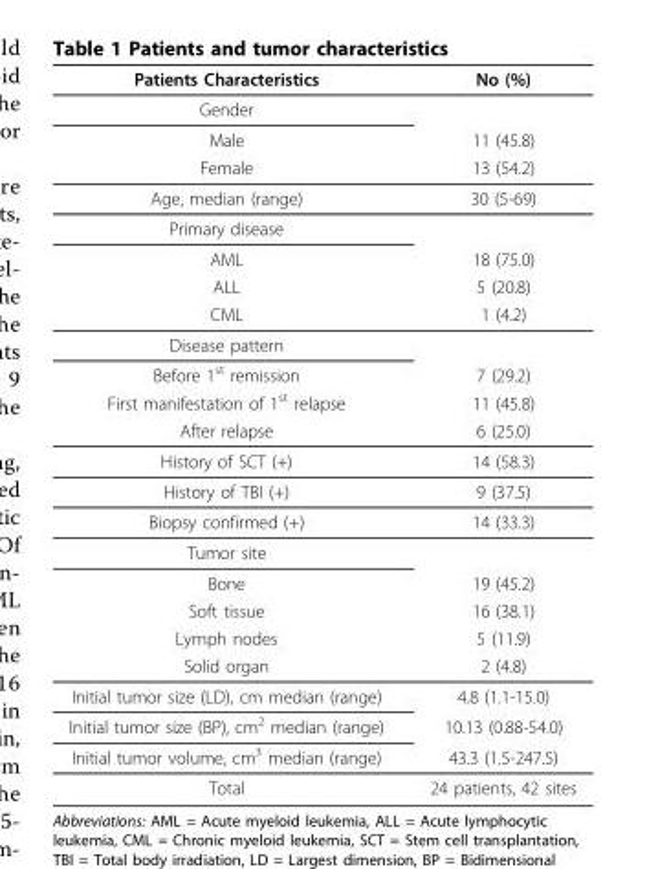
<table><thead><tr><td>Patients Characteristics</td><td>No (%)</td></tr></thead><tbody><tr><td colspan="2">Gender</td></tr><tr><td>Male</td><td>11 (45.8)</td></tr><tr><td>Female</td><td>13 (54.2)</td></tr><tr><td>Age, median (range)</td><td>30 (5-69)</td></tr><tr><td colspan="2">Primary disease</td></tr><tr><td>AML</td><td>18 (75.0)</td></tr><tr><td>ALL</td><td>5 (20.8)</td></tr><tr><td>CML</td><td>1 (4.2)</td></tr><tr><td colspan="2">Disease pattern</td></tr><tr><td>Before 1<sup>st</sup> remission</td><td>7 (29.2)</td></tr><tr><td>First manifestation of 1<sup>st</sup> relapse</td><td>11 (45.8)</td></tr><tr><td>After relapse</td><td>6 (25.0)</td></tr><tr><td>History of SCT (+)</td><td>14 (58.3)</td></tr><tr><td>History of TBI (+)</td><td>9 (37.5)</td></tr><tr><td>Biopsy confirmed (+)</td><td>14 (33.3)</td></tr><tr><td colspan="2">Tumor site</td></tr><tr><td>Bone</td><td>19 (45.2)</td></tr><tr><td>Soft tissue</td><td>16 (38.1)</td></tr><tr><td>Lymph nodes</td><td>5 (11.9)</td></tr><tr><td>Solid organ</td><td>2 (4.8)</td></tr><tr><td>Initial tumor size (LD), cm median (range)</td><td>4.8 (1.1-15.0)</td></tr><tr><td>Initial tumor size (BP), cm<sup>2</sup> median (range)</td><td>10.13 (0.88-54.0)</td></tr><tr><td>Initial tumor volume, cm<sup>3</sup> median (range)</td><td>43.3 (1.5-247.5)</td></tr><tr><td>Total</td><td>24 patients, 42 sites</td></tr></tbody></table>